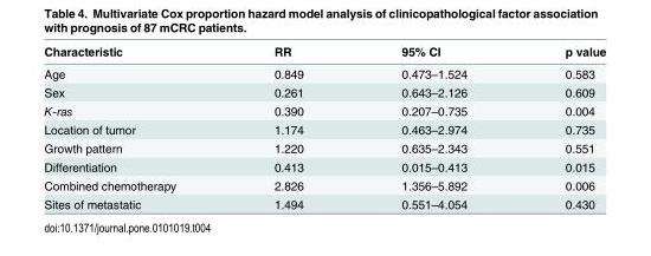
<table><thead><tr><td>Characteristic</td><td>RR</td><td>95% CI</td><td>p value</td></tr></thead><tbody><tr><td>Age</td><td>0.849</td><td>0.473–1.524</td><td>0.583</td></tr><tr><td>Sex</td><td>0.261</td><td>0.643–2.126</td><td>0.609</td></tr><tr><td>K-ras</td><td>0.390</td><td>0.207–0.735</td><td>0.004</td></tr><tr><td>Location of tumor</td><td>1.174</td><td>0.463–2.974</td><td>0.735</td></tr><tr><td>Growth pattern</td><td>1.220</td><td>0.635–2.343</td><td>0.551</td></tr><tr><td>Differentiation</td><td>0.413</td><td>0.015–0.413</td><td>0.015</td></tr><tr><td>Combined chemotherapy</td><td>2.826</td><td>1.356–5.892</td><td>0.006</td></tr><tr><td>Sites of metastatic</td><td>1.494</td><td>0.551–4.054</td><td>0.430</td></tr></tbody></table>